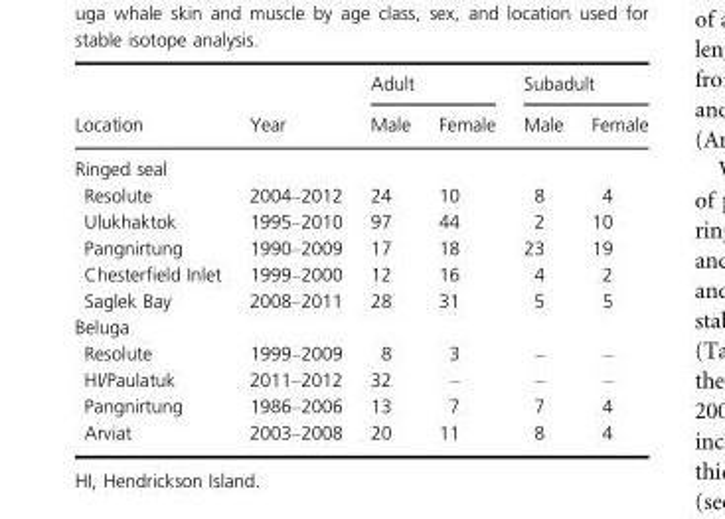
<table><thead><tr><td rowspan="2">Location</td><td rowspan="2">Year</td><td colspan="2">Adult</td><td colspan="2">Subadult</td></tr><tr><td>Male</td><td>Female</td><td>Male</td><td>Female</td></tr></thead><tbody><tr><td colspan="6">Ringed seal</td></tr><tr><td>Resolute</td><td>2004–2012</td><td>24</td><td>10</td><td>8</td><td>4</td></tr><tr><td>Ulukhaktok</td><td>1995–2010</td><td>97</td><td>44</td><td>2</td><td>10</td></tr><tr><td>Pangnirtung</td><td>1990–2009</td><td>17</td><td>18</td><td>23</td><td>19</td></tr><tr><td>Chesterfield Inlet</td><td>1999–2000</td><td>12</td><td>16</td><td>4</td><td>2</td></tr><tr><td>Saglek Bay</td><td>2008–2011</td><td>28</td><td>31</td><td>5</td><td>5</td></tr><tr><td colspan="6">Beluga</td></tr><tr><td>Resolute</td><td>1999–2009</td><td>8</td><td>3</td><td>–</td><td>–</td></tr><tr><td>HI/Paulatuk</td><td>2011–2012</td><td>32</td><td>–</td><td>–</td><td>–</td></tr><tr><td>Pangnirtung</td><td>1986–2006</td><td>13</td><td>7</td><td>7</td><td>4</td></tr><tr><td>Arviat</td><td>2003–2008</td><td>20</td><td>11</td><td>8</td><td>4</td></tr></tbody></table>